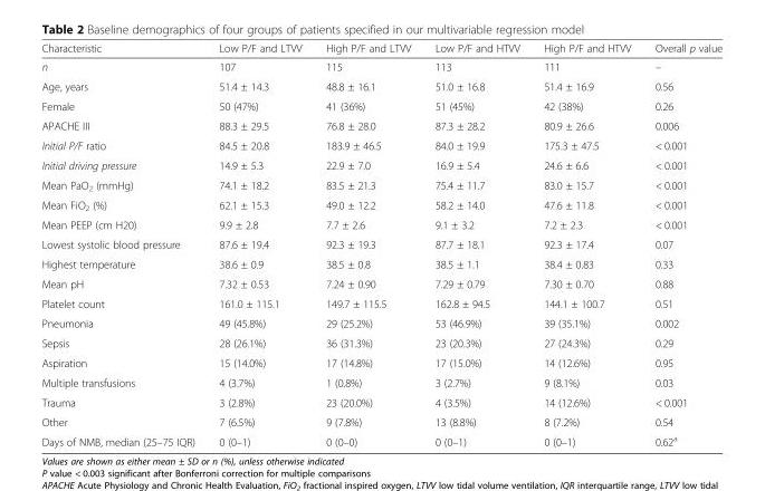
<table><thead><tr><td>Characteristic</td><td>Low P/F and LTVV</td><td>High P/F and LTVV</td><td>Low P/F and HTVV</td><td>High P/F and HTVV</td><td>Overall p value</td></tr></thead><tbody><tr><td>n</td><td>107</td><td>115</td><td>113</td><td>111</td><td>–</td></tr><tr><td>Age, years</td><td>51.4 ± 14.3</td><td>48.8 ± 16.1</td><td>51.0 ± 16.8</td><td>51.4 ± 16.9</td><td>0.56</td></tr><tr><td>Female</td><td>50 (47%)</td><td>41 (36%)</td><td>51 (45%)</td><td>42 (38%)</td><td>0.26</td></tr><tr><td>APACHE III</td><td>88.3 ± 29.5</td><td>76.8 ± 28.0</td><td>87.3 ± 28.2</td><td>80.9 ± 26.6</td><td>0.006</td></tr><tr><td>Initial P/F ratio</td><td>84.5 ± 20.8</td><td>183.9 ± 46.5</td><td>84.0 ± 19.9</td><td>175.3 ± 47.5</td><td>&lt; 0.001</td></tr><tr><td>Initial driving pressure</td><td>14.9 ± 5.3</td><td>22.9 ± 7.0</td><td>16.9 ± 5.4</td><td>24.6 ± 6.6</td><td>&lt; 0.001</td></tr><tr><td>Mean PaO<sub>2</sub> (mmHg)</td><td>74.1 ± 18.2</td><td>83.5 ± 21.3</td><td>75.4 ± 11.7</td><td>83.0 ± 15.7</td><td>&lt; 0.001</td></tr><tr><td>Mean FiO<sub>2</sub> (%)</td><td>62.1 ± 15.3</td><td>49.0 ± 12.2</td><td>58.2 ± 14.0</td><td>47.6 ± 11.8</td><td>&lt; 0.001</td></tr><tr><td>Mean PEEP (cm H20)</td><td>9.9 ± 2.8</td><td>7.7 ± 2.6</td><td>9.1 ± 3.2</td><td>7.2 ± 2.3</td><td>&lt; 0.001</td></tr><tr><td>Lowest systolic blood pressure</td><td>87.6 ± 19.4</td><td>92.3 ± 19.3</td><td>87.7 ± 18.1</td><td>92.3 ± 17.4</td><td>0.07</td></tr><tr><td>Highest temperature</td><td>38.6 ± 0.9</td><td>38.5 ± 0.8</td><td>38.5 ± 1.1</td><td>38.4 ± 0.83</td><td>0.33</td></tr><tr><td>Mean pH</td><td>7.32 ± 0.53</td><td>7.24 ± 0.90</td><td>7.29 ± 0.79</td><td>7.30 ± 0.70</td><td>0.88</td></tr><tr><td>Platelet count</td><td>161.0 ± 115.1</td><td>149.7 ± 115.5</td><td>162.8 ± 94.5</td><td>144.1 ± 100.7</td><td>0.51</td></tr><tr><td>Pneumonia</td><td>49 (45.8%)</td><td>29 (25.2%)</td><td>53 (46.9%)</td><td>39 (35.1%)</td><td>0.002</td></tr><tr><td>Sepsis</td><td>28 (26.1%)</td><td>36 (31.3%)</td><td>23 (20.3%)</td><td>27 (24.3%)</td><td>0.29</td></tr><tr><td>Aspiration</td><td>15 (14.0%)</td><td>17 (14.8%)</td><td>17 (15.0%)</td><td>14 (12.6%)</td><td>0.95</td></tr><tr><td>Multiple transfusions</td><td>4 (3.7%)</td><td>1 (0.8%)</td><td>3 (2.7%)</td><td>9 (8.1%)</td><td>0.03</td></tr><tr><td>Trauma</td><td>3 (2.8%)</td><td>23 (20.0%)</td><td>4 (3.5%)</td><td>14 (12.6%)</td><td>&lt; 0.001</td></tr><tr><td>Other</td><td>7 (6.5%)</td><td>9 (7.8%)</td><td>13 (8.8%)</td><td>8 (7.2%)</td><td>0.54</td></tr><tr><td>Days of NMB, median (25–75 IQR)</td><td>0 (0–1)</td><td>0 (0–0)</td><td>0 (0–1)</td><td>0 (0–1)</td><td>0.62<sup>a</sup></td></tr></tbody></table>